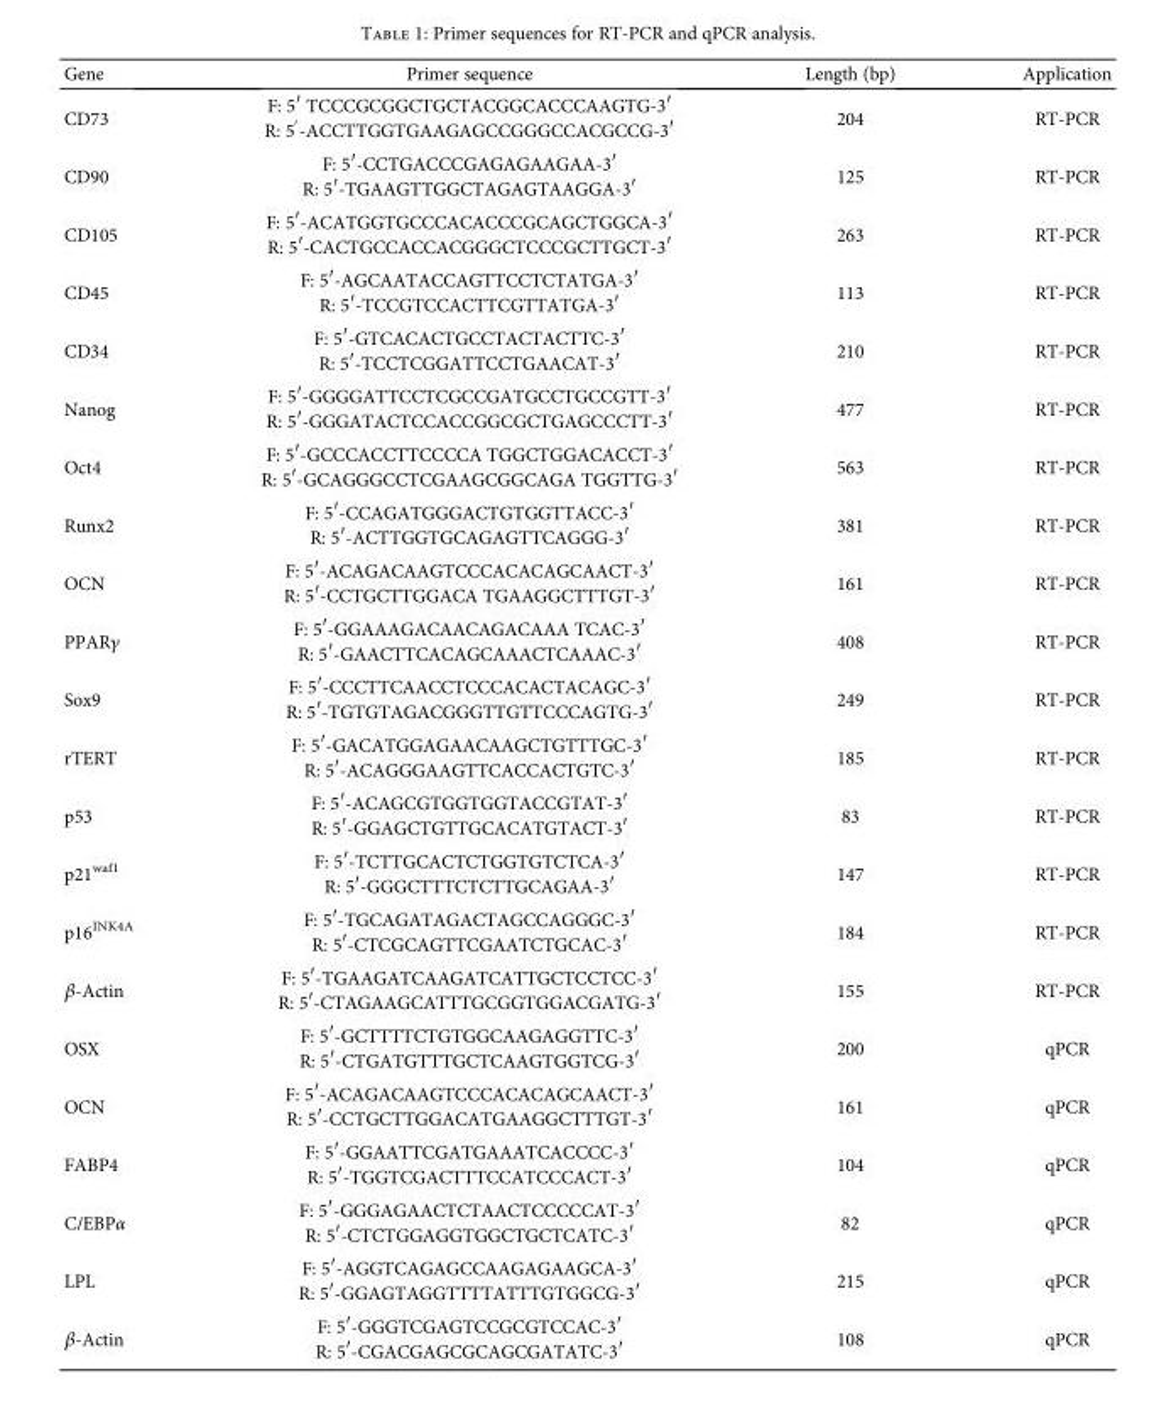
<table><thead><tr><td>Gene</td><td>Primer sequence</td><td>Length (bp)</td><td>Application</td></tr></thead><tbody><tr><td>CD73</td><td>F: 5′ TCCCGCGGCTGCTACGGCACCCAAGTG-3′ R: 5 -ACCTTGGTGAAGAGCCGGGCCACGCCG-3′</td><td>204</td><td>RT-PCR</td></tr><tr><td>CD90</td><td>F: 5′-CCTGACCCGAGAGAAGAA-3′ R: 5′-TGAAGTTGGCTAGAGTAAGGA-3′</td><td>125</td><td>RT-PCR</td></tr><tr><td>CD105</td><td>F: 5′-ACATGGTGCCCACACCCGCAGCTGGCA-3′ R: 5′-CACTGCCACCACGGGCTCCCGCTTGCT-3′</td><td>263</td><td>RT-PCR</td></tr><tr><td>CD45</td><td>F: 5′-AGCAATACCAGTTCCTCTATGA-3′ R: 5′-TCCGTCCACTTCGTTATGA-3′</td><td>113</td><td>RT-PCR</td></tr><tr><td>CD34</td><td>F: 5′-GTCACACTGCCTACTACTTC-3′ R: 5′-TCCTCGGATTCCTGAACAT-3′</td><td>210</td><td>RT-PCR</td></tr><tr><td>Nanog</td><td>F: 5′-GGGGATTCCTCGCCGATGCCTGCCGTT-3′ R: 5′-GGGATACTCCACCGGCGCTGAGCCCTT-3′</td><td>477</td><td>RT-PCR</td></tr><tr><td>Oct4</td><td>F: 5′-GCCCACCTTCCCCA TGGCTGGACACCT-3′ R: 5′-GCAGGGCCTCGAAGCGGCAGA TGGTTG-3′</td><td>563</td><td>RT-PCR</td></tr><tr><td>Runx2</td><td>F: 5′-CCAGATGGGACTGTGGTTACC-3′ R: 5′-ACTTGGTGCAGAGTTCAGGG-3′</td><td>381</td><td>RT-PCR</td></tr><tr><td>OCN</td><td>F: 5′-ACAGACAAGTCCCACACAGCAACT-3′ R: 5′-CCTGCTTGGACA TGAAGGCTTTGT-3′</td><td>161</td><td>RT-PCR</td></tr><tr><td>PPARγ</td><td>F: 5′-GGAAAGACAACAGACAAA TCAC-3′ R: 5′-GAACTTCACAGCAAACTCAAAC-3′</td><td>408</td><td>RT-PCR</td></tr><tr><td>Sox9</td><td>F: 5′-CCCTTCAACCTCCCACACTACAGC-3′ R: 5′-TGTGTAGACGGGTTGTTCCCAGTG-3′</td><td>249</td><td>RT-PCR</td></tr><tr><td>rTERT</td><td>F: 5′-GACATGGAGAACAAGCTGTTTGC-3′ R: 5′-ACAGGGAAGTTCACCACTGTC-3′</td><td>185</td><td>RT-PCR</td></tr><tr><td>p53</td><td>F: 5′-ACAGCGTGGTGGTACCGTAT-3′ R: 5′-GGAGCTGTTGCACATGTACT-3′</td><td>83</td><td>RT-PCR</td></tr><tr><td>p21<sup>waf1</sup></td><td>F: 5′-TCTTGCACTCTGGTGTCTCA-3′ R: 5′-GGGCTTTCTCTTGCAGAA-3′</td><td>147</td><td>RT-PCR</td></tr><tr><td>p16<sup>INK4A</sup></td><td>F: 5′-TGCAGATAGACTAGCCAGGGC-3′ R: 5′-CTCGCAGTTCGAATCTGCAC-3′</td><td>184</td><td>RT-PCR</td></tr><tr><td>β-Actin</td><td>F: 5′-TGAAGATCAAGATCATTGCTCCTCC-3′ R: 5′-CTAGAAGCATTTGCGGTGGACGATG-3′</td><td>155</td><td>RT-PCR</td></tr><tr><td>OSX</td><td>F: 5′-GCTTTTCTGTGGCAAGAGGTTC-3′ R: 5′-CTGATGTTTGCTCAAGTGGTCG-3′</td><td>200</td><td>qPCR</td></tr><tr><td>OCN</td><td>F: 5′-ACAGACAAGTCCCACACAGCAACT-3′ R: 5′-CCTGCTTGGACATGAAGGCTTTGT-3′</td><td>161</td><td>qPCR</td></tr><tr><td>FABP4</td><td>F: 5′-GGAATTCGATGAAATCACCCC-3′ R: 5′-TGGTCGACTTTCCATCCCACT-3′</td><td>104</td><td>qPCR</td></tr><tr><td>C/EBPα</td><td>F: 5′-GGGAGAACTCTAACTCCCCCAT-3′ R: 5′-CTCTGGAGGTGGCTGCTCATC-3′</td><td>82</td><td>qPCR</td></tr><tr><td>LPL</td><td>F: 5′-AGGTCAGAGCCAAGAGAAGCA-3′ R: 5′-GGAGTAGGTTTTATTTGTGGCG-3′</td><td>215</td><td>qPCR</td></tr><tr><td>β-Actin</td><td>F: 5′-GGGTCGAGTCCGCGTCCAC-3′ R: 5′-CGACGAGCGCAGCGATATC-3′</td><td>108</td><td>qPCR</td></tr></tbody></table>